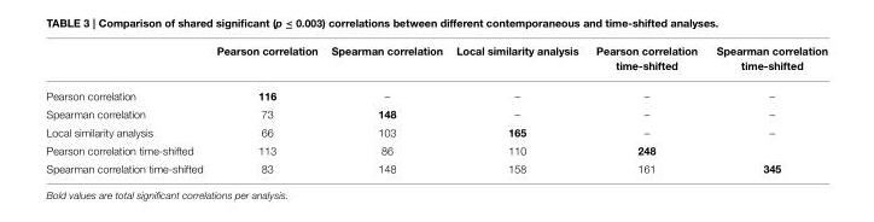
<table><thead><tr><td></td><td>Pearson correlation</td><td>Spearman correlation</td><td>Local similarity analysis</td><td>Pearson correlation time-shifted</td><td>Spearman correlation time-shifted</td></tr></thead><tbody><tr><td>Pearson correlation</td><td>116</td><td>–</td><td>–</td><td>–</td><td>–</td></tr><tr><td>Spearman correlation</td><td>73</td><td>148</td><td>–</td><td>–</td><td>–</td></tr><tr><td>Local similarity analysis</td><td>66</td><td>103</td><td>165</td><td>–</td><td>–</td></tr><tr><td>Pearson correlation time-shifted</td><td>113</td><td>86</td><td>110</td><td>248</td><td></td></tr><tr><td>Spearman correlation time-shifted</td><td>83</td><td>148</td><td>158</td><td>161</td><td>345</td></tr></tbody></table>